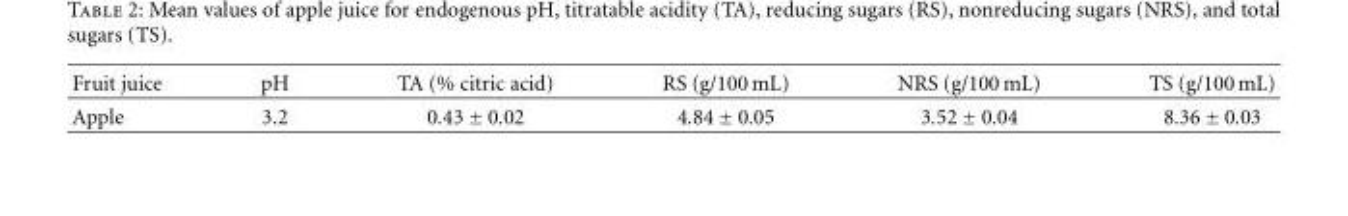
<table><thead><tr><td>Fruit juice</td><td>pH</td><td>TA (% citric acid)</td><td>RS (g/100 mL)</td><td>NRS (g/100 mL)</td><td>TS (g/100 mL)</td></tr></thead><tbody><tr><td>Apple</td><td>3.2</td><td>0.43 ± 0.02</td><td>4.84 ± 0.05</td><td>3.52 ± 0.04</td><td>8.36 ± 0.03</td></tr></tbody></table>